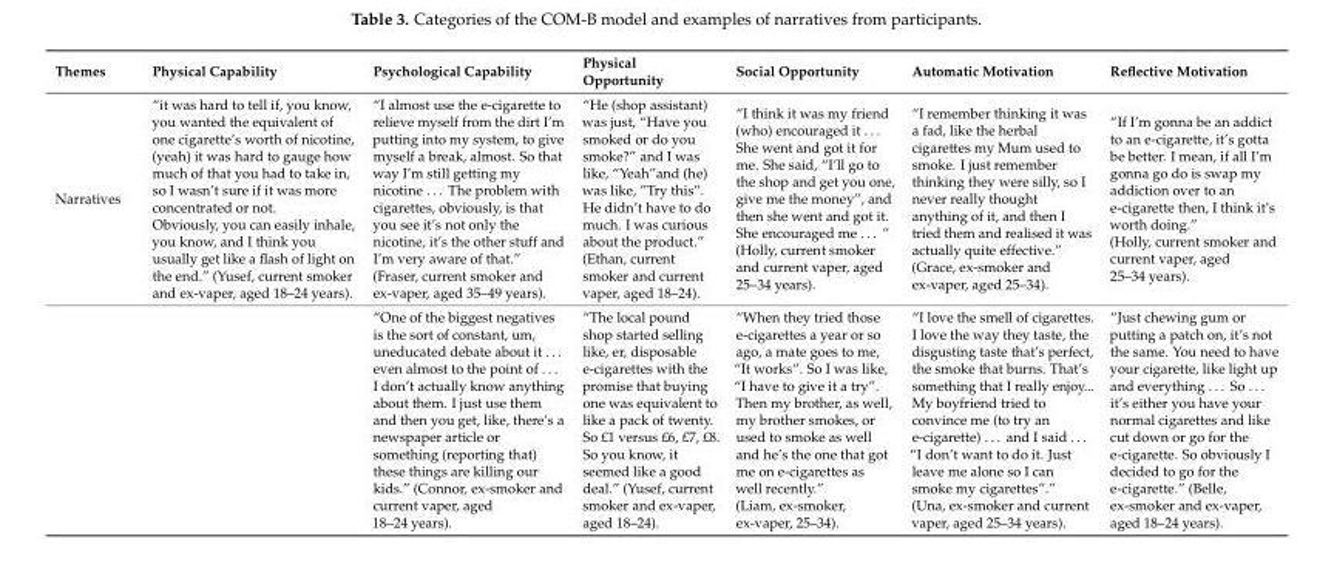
<table><thead><tr><td>Themes</td><td>Physical Capability</td><td>Psychological Capability</td><td>Physical Opportunity</td><td>Social Opportunity</td><td>Automatic Motivation</td><td>Reflective Motivation</td></tr></thead><tbody><tr><td rowspan="2">Narratives</td><td>“it was hard to tell if, you know, you wanted the equivalent of one cigarette’s worth of nicotine, (yeah) it was hard to gauge how much of that you had to take in, so I wasn’t sure if it was more concentrated or not. Obviously, you can easily inhale, you know, and I think you usually get like a flash of light on the end.” (Yusef, current smoker and ex-vaper, aged 18–24 years).</td><td>“I almost use the e-cigarette to relieve myself from the dirt I’m putting into my system, to give myself a break, almost. So that way I’m still getting my nicotine . . . The problem with cigarettes, obviously, is that you see it’s not only the nicotine, it’s the other stuff and I’m very aware of that.” (Fraser, current smoker and ex-vaper, aged 35–49 years).</td><td>“He (shop assistant) was just, “Have you smoked or do you smoke?” and I was like, “Yeah”and (he) was like, ”Try this”. He didn’t have to do much. I was curious about the product.” (Ethan, current smoker and current vaper, aged 18–24).</td><td>“I think it was my friend (who) encouraged it . . . She went and got it for me. She said, “I’ll go to the shop and get you one, give me the money”, and then she went and got it. She encouraged me . . . ” (Holly, current smoker and current vaper, aged 25–34 years).</td><td>“I remember thinking it was a fad, like the herbal cigarettes my Mum used to smoke. I just remember thinking they were silly, so I never really thought anything of it, and then I tried them and realised it was actually quite effective.” (Grace, ex-smoker and ex-vaper, aged 25–34).</td><td>“If I’m gonna be an addict to an e-cigarette, it’s gotta be better. I mean, if all I’m gonna go do is swap my addiction over to an e-cigarette then, I think it’s worth doing.” (Holly, current smoker and current vaper, aged 25–34 years).</td></tr><tr><td></td><td>“One of the biggest negatives is the sort of constant, um, uneducated debate about it . . . even almost to the point of . . . I don’t actually know anything about them. I just use them and then you get, like, there’s a newspaper article or something (reporting that) these things are killing our kids.” (Connor, ex-smoker and current vaper, aged 18–24 years).</td><td>“The local pound shop started selling like, er, disposable e-cigarettes with the promise that buying one was equivalent to like a pack of twenty. So £1 versus £6, £7, £8. So you know, it seemed like a good deal.” (Yusef, current smoker and ex-vaper, aged 18–24).</td><td>“When they tried those e-cigarettes a year or so ago, a mate goes to me, “It works”. So I was like, “I have to give it a try”. Then my brother, as well, my brother smokes, or used to smoke as well and he’s the one that got me on e-cigarettes as well recently.” (Liam, ex-smoker, ex-vaper, 25–34).</td><td>“I love the smell of cigarettes. I love the way they taste, the disgusting taste that’s perfect, the smoke that burns. That’s something that I really enjoy... My boyfriend tried to convince me (to try an e-cigarette) . . . and I said . . . “I don’t want to do it. Just leave me alone so I can smoke my cigarettes”.” (Una, ex-smoker and current vaper, aged 25–34 years).</td><td>“Just chewing gum or putting a patch on, it’s not the same. You need to have your cigarette, like light up and everything . . . So . . . it’s either you have your normal cigarettes and like cut down or go for the e-cigarette. So obviously I decided to go for the e-cigarette.” (Belle, ex-smoker and ex-vaper, aged 18–24 years).</td></tr></tbody></table>